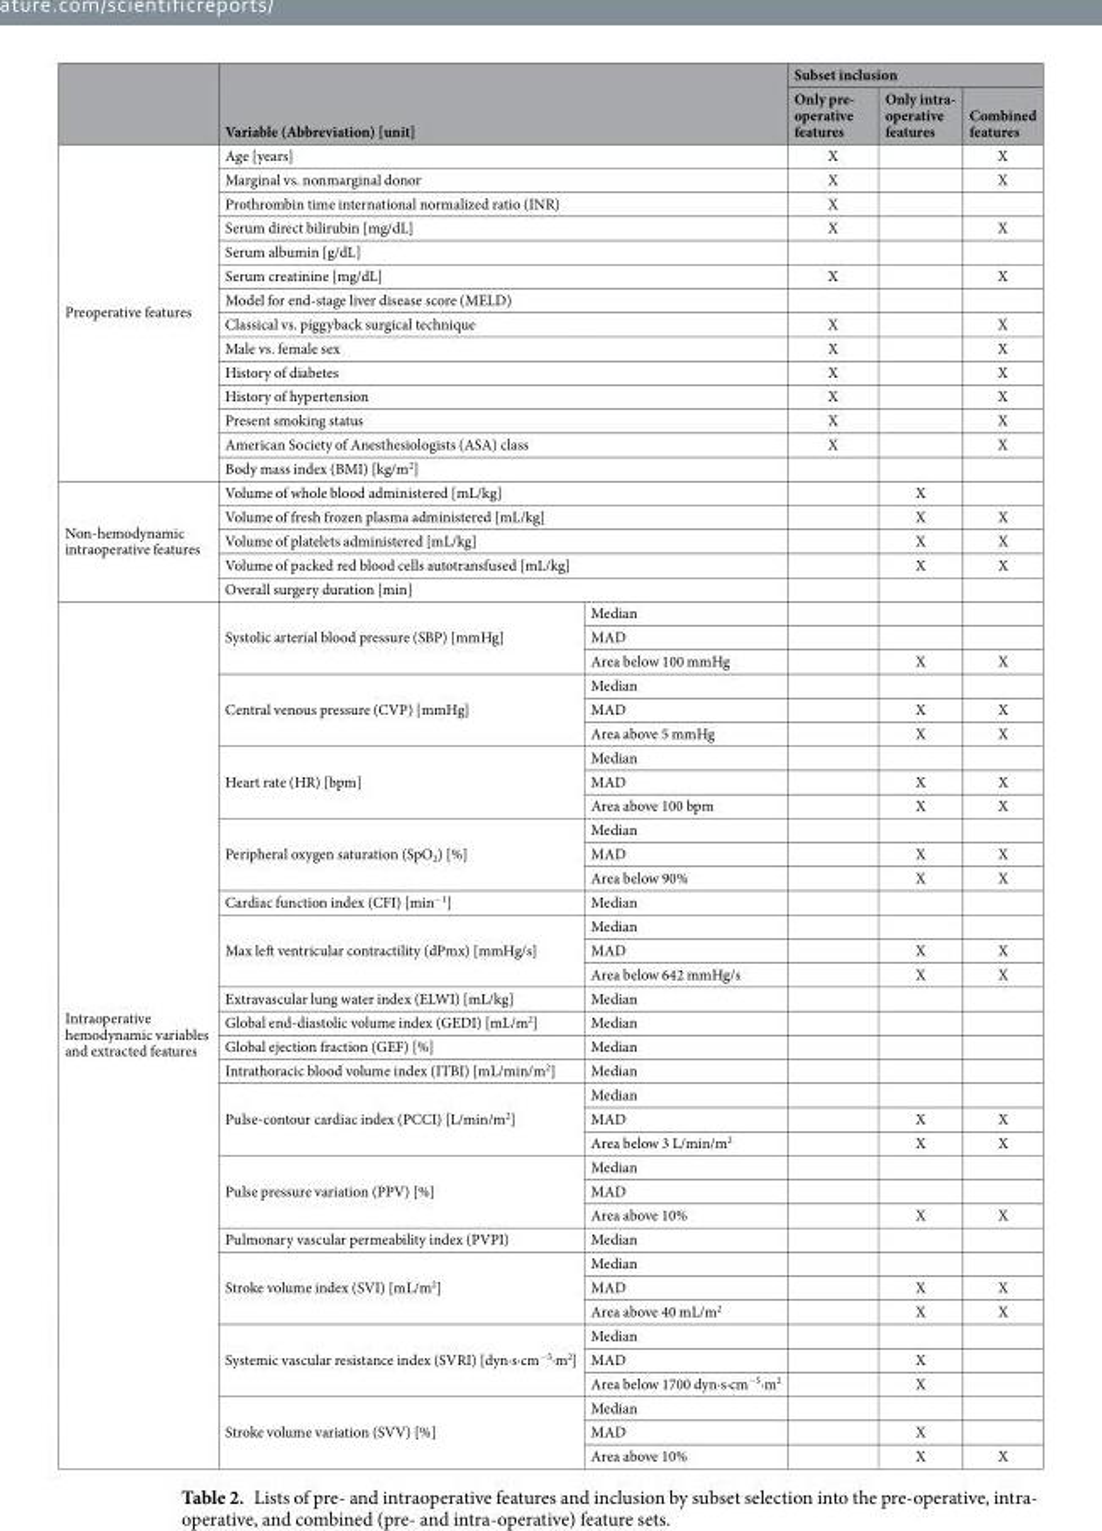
<table><thead><tr><td rowspan="2"></td><td rowspan="2" colspan="2">Variable (Abbreviation) [unit]</td><td colspan="3">Subset inclusion</td></tr><tr><td>Only pre- operative features</td><td>Only intra- operative features</td><td>Combined features</td></tr></thead><tbody><tr><td rowspan="14">Preoperative features</td><td colspan="2">Age [years]</td><td>X</td><td></td><td>X</td></tr><tr><td colspan="2">Marginal vs. nonmarginal donor</td><td>X</td><td></td><td>X</td></tr><tr><td colspan="2">Prothrombin time international normalized ratio (INR)</td><td>X</td><td></td><td></td></tr><tr><td colspan="2">Serum direct bilirubin [mg/dL]</td><td>X</td><td></td><td>X</td></tr><tr><td colspan="2">Serum albumin [g/dL]</td><td></td><td></td><td></td></tr><tr><td colspan="2">Serum creatinine [mg/dL]</td><td>X</td><td></td><td>X</td></tr><tr><td colspan="2">Model for end-stage liver disease score (MELD)</td><td></td><td></td><td></td></tr><tr><td colspan="2">Classical vs. piggyback surgical technique</td><td>X</td><td></td><td>X</td></tr><tr><td colspan="2">Male vs. female sex</td><td>X</td><td></td><td>X</td></tr><tr><td colspan="2">History of diabetes</td><td>X</td><td></td><td>X</td></tr><tr><td colspan="2">History of hypertension</td><td>X</td><td></td><td>X</td></tr><tr><td colspan="2">Present smoking status</td><td>X</td><td></td><td>X</td></tr><tr><td colspan="2">American Society of Anesthesiologists (ASA) class</td><td>X</td><td></td><td>X</td></tr><tr><td colspan="2">Body mass index (BMI) [kg/m<sup>2</sup>]</td><td></td><td></td><td></td></tr><tr><td rowspan="5">Non-hemodynamic intraoperative features</td><td colspan="2">Volume of whole blood administered [mL/kg]</td><td></td><td>X</td><td></td></tr><tr><td colspan="2">Volume of fresh frozen plasma administered [mL/kg]</td><td></td><td>X</td><td>X</td></tr><tr><td colspan="2">Volume of platelets administered [mL/kg]</td><td></td><td>X</td><td>X</td></tr><tr><td colspan="2">Volume of packed red blood cells autotransfused [mL/kg]</td><td></td><td>X</td><td>X</td></tr><tr><td colspan="2">Overall surgery duration [min]</td><td></td><td></td><td></td></tr><tr><td rowspan="36">Intraoperative hemodynamic variables and extracted features</td><td rowspan="3">Systolic arterial blood pressure (SBP) [mmHg]</td><td>Median</td><td></td><td></td><td></td></tr><tr><td>MAD</td><td></td><td></td><td></td></tr><tr><td>Area below 100 mmHg</td><td></td><td>X</td><td>X</td></tr><tr><td rowspan="3">Central venous pressure (CVP) [mmHg]</td><td>Median</td><td></td><td></td><td></td></tr><tr><td>MAD</td><td></td><td>X</td><td>X</td></tr><tr><td>Area above 5 mmHg</td><td></td><td>X</td><td>X</td></tr><tr><td rowspan="3">Heart rate (HR) [bpm]</td><td>Median</td><td></td><td></td><td></td></tr><tr><td>MAD</td><td></td><td>X</td><td>X</td></tr><tr><td>Area above 100 bpm</td><td></td><td>X</td><td>X</td></tr><tr><td rowspan="3">Peripheral oxygen saturation (SpO<sub>2</sub>) [%]</td><td>Median</td><td></td><td></td><td></td></tr><tr><td>MAD</td><td></td><td>X</td><td>X</td></tr><tr><td>Area below 90%</td><td></td><td>X</td><td>X</td></tr><tr><td>Cardiac function index (CFI) [min<sup>−1</sup>]</td><td>Median</td><td></td><td></td><td></td></tr><tr><td rowspan="3">Max left ventricular contractility (dPmx) [mmHg/s]</td><td>Median</td><td></td><td></td><td></td></tr><tr><td>MAD</td><td></td><td>X</td><td>X</td></tr><tr><td>Area below 642 mmHg/s</td><td></td><td>X</td><td>X</td></tr><tr><td>Extravascular lung water index (ELWI) [mL/kg]</td><td>Median</td><td></td><td></td><td></td></tr><tr><td>Global end-diastolic volume index (GEDI) [mL/m<sup>2</sup>]</td><td>Median</td><td></td><td></td><td></td></tr><tr><td>Global ejection fraction (GEF) [%]</td><td>Median</td><td></td><td></td><td></td></tr><tr><td>Intrathoracic blood volume index (ITBI) [mL/min/m<sup>2</sup>]</td><td>Median</td><td></td><td></td><td></td></tr><tr><td rowspan="3">Pulse-contour cardiac index (PCCI) [L/min/m<sup>2</sup>]</td><td>Median</td><td></td><td></td><td></td></tr><tr><td>MAD</td><td></td><td>X</td><td>X</td></tr><tr><td>Area below 3 L/min/m<sup>2</sup></td><td></td><td>X</td><td>X</td></tr><tr><td rowspan="3">Pulse pressure variation (PPV) [%]</td><td>Median</td><td></td><td></td><td></td></tr><tr><td>MAD</td><td></td><td></td><td></td></tr><tr><td>Area above 10%</td><td></td><td>X</td><td>X</td></tr><tr><td>Pulmonary vascular permeability index (PVPI)</td><td>Median</td><td></td><td></td><td></td></tr><tr><td rowspan="3">Stroke volume index (SVI) [mL/m<sup>2</sup>]</td><td>Median</td><td></td><td></td><td></td></tr><tr><td>MAD</td><td></td><td>X</td><td>X</td></tr><tr><td>Area above 40 mL/m<sup>2</sup></td><td></td><td>X</td><td>X</td></tr><tr><td rowspan="3">Systemic vascular resistance index (SVRI) [dyn·s·cm<sup>−5</sup>·m<sup>2</sup>]</td><td>Median</td><td></td><td></td><td></td></tr><tr><td>MAD</td><td></td><td>X</td><td></td></tr><tr><td>Area below 1700 dyn·s·cm<sup>−5</sup>·m<sup>2</sup></td><td></td><td>X</td><td></td></tr><tr><td rowspan="3">Stroke volume variation (SVV) [%]</td><td>Median</td><td></td><td></td><td></td></tr><tr><td>MAD</td><td></td><td>X</td><td></td></tr><tr><td>Area above 10%</td><td></td><td>X</td><td>X</td></tr></tbody></table>